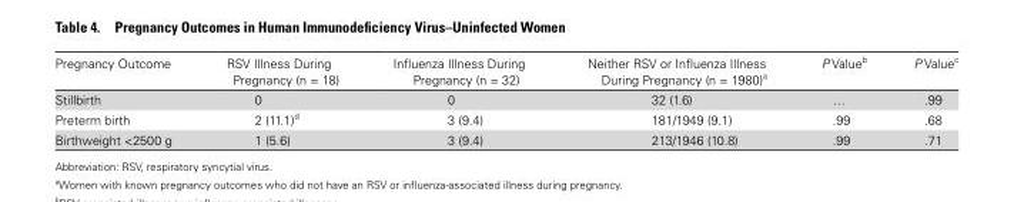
<table><thead><tr><td>Pregnancy Outcome</td><td>RSV Illness During Pregnancy (n = 18)</td><td>Influenza Illness During Pregnancy (n = 32)</td><td>Neither RSV or Influenza Illness During Pregnancy (n = 1980)<sup>a</sup></td><td>P Value<sup>b</sup></td><td>P Value<sup>c</sup></td></tr></thead><tbody><tr><td>Stillbirth</td><td>0</td><td>0</td><td>32 (1.6)</td><td>…</td><td>.99</td></tr><tr><td>Preterm birth</td><td>2 (11.1)<sup>d</sup></td><td>3 (9.4)</td><td>181/1949 (9.1)</td><td>.99</td><td>.68</td></tr><tr><td>Birthweight &lt;2500 g</td><td>1 (5.6)</td><td>3 (9.4)</td><td>213/1946 (10.8)</td><td>.99</td><td>.71</td></tr></tbody></table>